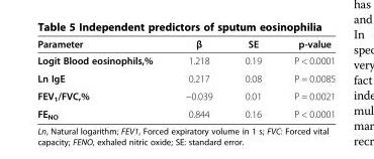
<table><thead><tr><td>Parameter</td><td>β</td><td>SE</td><td>p-value</td></tr></thead><tbody><tr><td>Logit Blood eosinophils,%</td><td>1.218</td><td>0.19</td><td>P &lt; 0.0001</td></tr><tr><td>Ln IgE</td><td>0.217</td><td>0.08</td><td>P = 0.0085</td></tr><tr><td>FEV<sub>1</sub>/FVC,%</td><td>−0.039</td><td>0.01</td><td>P = 0.0021</td></tr><tr><td>FE<sub>NO</sub></td><td>0.844</td><td>0.16</td><td>P &lt; 0.0001</td></tr></tbody></table>